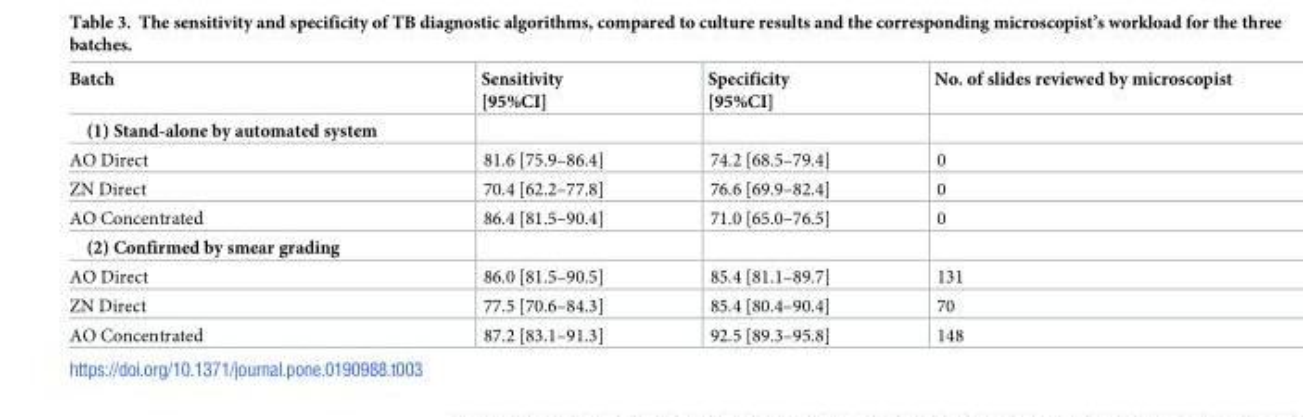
<table><thead><tr><td>Batch</td><td>Sensitivity [95%CI]</td><td>Specificity [95%CI]</td><td>No. of slides reviewed by microscopist</td></tr></thead><tbody><tr><td colspan="4">(1) Stand-alone by automated system</td></tr><tr><td>AO Direct</td><td>81.6 [75.9–86.4]</td><td>74.2 [68.5–79.4]</td><td>0</td></tr><tr><td>ZN Direct</td><td>70.4 [62.2–77.8]</td><td>76.6 [69.9–82.4]</td><td>0</td></tr><tr><td>AO Concentrated</td><td>86.4 [81.5–90.4]</td><td>71.0 [65.0–76.5]</td><td>0</td></tr><tr><td colspan="4">(2) Confirmed by smear grading</td></tr><tr><td>AO Direct</td><td>86.0 [81.5–90.5]</td><td>85.4 [81.1–89.7]</td><td>131</td></tr><tr><td>ZN Direct</td><td>77.5 [70.6–84.3]</td><td>85.4 [80.4–90.4]</td><td>70</td></tr><tr><td>AO Concentrated</td><td>87.2 [83.1–91.3]</td><td>92.5 [89.3–95.8]</td><td>148</td></tr></tbody></table>